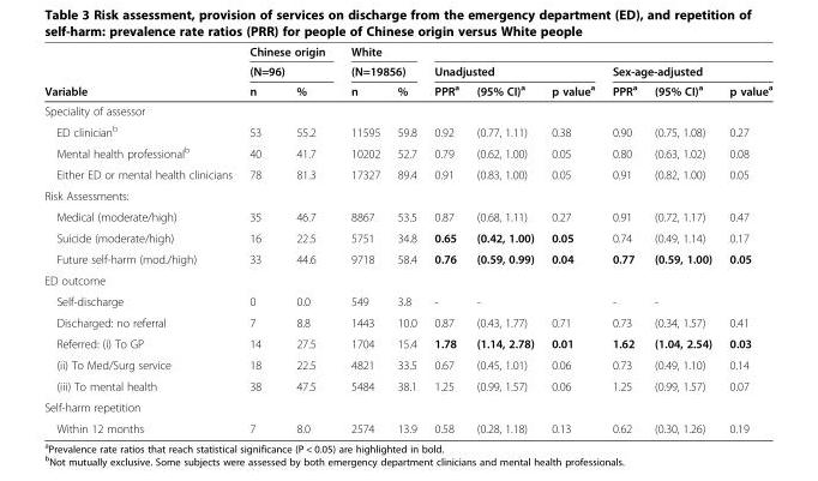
<table><thead><tr><td rowspan="3">Variable</td><td rowspan="2" colspan="2">Chinese origin (N=96)</td><td rowspan="2" colspan="2">White (N=19856)</td><td></td><td></td><td></td><td></td><td></td><td></td></tr><tr><td colspan="3">Unadjusted</td><td colspan="3">Sex-age-adjusted</td></tr><tr><td>n</td><td>%</td><td>n</td><td>%</td><td>PPR<sup>a</sup></td><td>(95% CI)<sup>a</sup></td><td>p value<sup>a</sup></td><td>PPR<sup>a</sup></td><td>(95% CI)<sup>a</sup></td><td>p value<sup>a</sup></td></tr></thead><tbody><tr><td colspan="11">Speciality of assessor</td></tr><tr><td>ED clinician<sup>b</sup></td><td>53</td><td>55.2</td><td>11595</td><td>59.8</td><td>0.92</td><td>(0.77, 1.11)</td><td>0.38</td><td>0.90</td><td>(0.75, 1.08)</td><td>0.27</td></tr><tr><td>Mental health professional<sup>b</sup></td><td>40</td><td>41.7</td><td>10202</td><td>52.7</td><td>0.79</td><td>(0.62, 1.00)</td><td>0.05</td><td>0.80</td><td>(0.63, 1.02)</td><td>0.08</td></tr><tr><td>Either ED or mental health clinicians</td><td>78</td><td>81.3</td><td>17327</td><td>89.4</td><td>0.91</td><td>(0.83, 1.00)</td><td>0.05</td><td>0.91</td><td>(0.82, 1.00)</td><td>0.05</td></tr><tr><td colspan="11">Risk Assessments:</td></tr><tr><td>Medical (moderate/high)</td><td>35</td><td>46.7</td><td>8867</td><td>53.5</td><td>0.87</td><td>(0.68, 1.11)</td><td>0.27</td><td>0.91</td><td>(0.72, 1.17)</td><td>0.47</td></tr><tr><td>Suicide (moderate/high)</td><td>16</td><td>22.5</td><td>5751</td><td>34.8</td><td>0.65</td><td>(0.42, 1.00)</td><td>0.05</td><td>0.74</td><td>(0.49, 1.14)</td><td>0.17</td></tr><tr><td>Future self-harm (mod./high)</td><td>33</td><td>44.6</td><td>9718</td><td>58.4</td><td>0.76</td><td>(0.59, 0.99)</td><td>0.04</td><td>0.77</td><td>(0.59, 1.00)</td><td>0.05</td></tr><tr><td colspan="11">ED outcome</td></tr><tr><td>Self-discharge</td><td>0</td><td>0.0</td><td>549</td><td>3.8</td><td>-</td><td>-</td><td></td><td>-</td><td>-</td><td></td></tr><tr><td>Discharged: no referral</td><td>7</td><td>8.8</td><td>1443</td><td>10.0</td><td>0.87</td><td>(0.43, 1.77)</td><td>0.71</td><td>0.73</td><td>(0.34, 1.57)</td><td>0.41</td></tr><tr><td>Referred: (i) To GP</td><td>14</td><td>27.5</td><td>1704</td><td>15.4</td><td>1.78</td><td>(1.14, 2.78)</td><td>0.01</td><td>1.62</td><td>(1.04, 2.54)</td><td>0.03</td></tr><tr><td>(ii) To Med/Surg service</td><td>18</td><td>22.5</td><td>4821</td><td>33.5</td><td>0.67</td><td>(0.45, 1.01)</td><td>0.06</td><td>0.73</td><td>(0.49, 1.10)</td><td>0.14</td></tr><tr><td>(iii) To mental health</td><td>38</td><td>47.5</td><td>5484</td><td>38.1</td><td>1.25</td><td>(0.99, 1.57)</td><td>0.06</td><td>1.25</td><td>(0.99, 1.57)</td><td>0.07</td></tr><tr><td colspan="11">Self-harm repetition</td></tr><tr><td>Within 12 months</td><td>7</td><td>8.0</td><td>2574</td><td>13.9</td><td>0.58</td><td>(0.28, 1.18)</td><td>0.13</td><td>0.62</td><td>(0.30, 1.26)</td><td>0.19</td></tr></tbody></table>